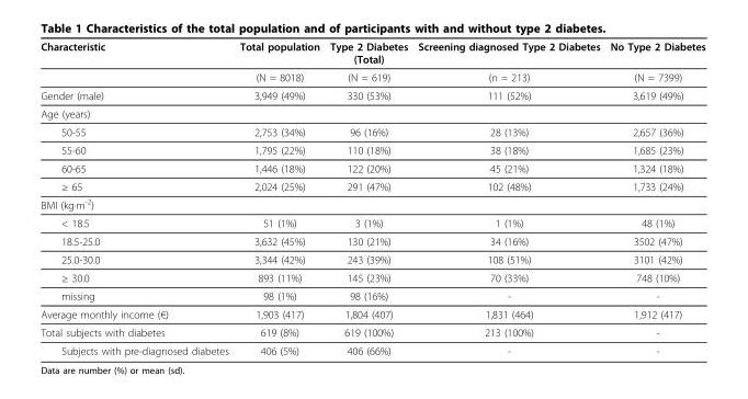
<table><thead><tr><td>Characteristic</td><td>Total population</td><td>Type 2 Diabetes (Total)</td><td>Screening diagnosed Type 2 Diabetes</td><td>No Type 2 Diabetes</td></tr></thead><tbody><tr><td></td><td>(N = 8018)</td><td>(N = 619)</td><td>(n = 213)</td><td>(N = 7399)</td></tr><tr><td>Gender (male)</td><td>3,949 (49%)</td><td>330 (53%)</td><td>111 (52%)</td><td>3,619 (49%)</td></tr><tr><td colspan="5">Age (years)</td></tr><tr><td>50-55</td><td>2,753 (34%)</td><td>96 (16%)</td><td>28 (13%)</td><td>2,657 (36%)</td></tr><tr><td>55-60</td><td>1,795 (22%)</td><td>110 (18%)</td><td>38 (18%)</td><td>1,685 (23%)</td></tr><tr><td>60-65</td><td>1,446 (18%)</td><td>122 (20%)</td><td>45 (21%)</td><td>1,324 (18%)</td></tr><tr><td>≥ 65</td><td>2,024 (25%)</td><td>291 (47%)</td><td>102 (48%)</td><td>1,733 (24%)</td></tr><tr><td colspan="5">BMI (kg·m<sup>-2</sup>)</td></tr><tr><td>&lt; 18.5</td><td>51 (1%)</td><td>3 (1%)</td><td>1 (1%)</td><td>48 (1%)</td></tr><tr><td>18.5-25.0</td><td>3,632 (45%)</td><td>130 (21%)</td><td>34 (16%)</td><td>3502 (47%)</td></tr><tr><td>25.0-30.0</td><td>3,344 (42%)</td><td>243 (39%)</td><td>108 (51%)</td><td>3101 (42%)</td></tr><tr><td>≥ 30.0</td><td>893 (11%)</td><td>145 (23%)</td><td>70 (33%)</td><td>748 (10%)</td></tr><tr><td>missing</td><td>98 (1%)</td><td>98 (16%)</td><td>-</td><td>-</td></tr><tr><td>Average monthly income (€)</td><td>1,903 (417)</td><td>1,804 (407)</td><td>1,831 (464)</td><td>1,912 (417)</td></tr><tr><td>Total subjects with diabetes</td><td>619 (8%)</td><td>619 (100%)</td><td>213 (100%)</td><td>-</td></tr><tr><td>Subjects with pre-diagnosed diabetes</td><td>406 (5%)</td><td>406 (66%)</td><td>-</td><td>-</td></tr></tbody></table>